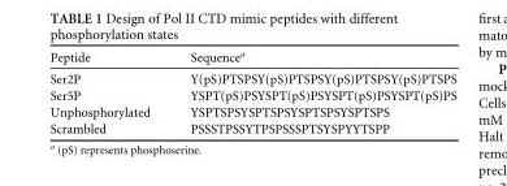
<table><thead><tr><td>Peptide</td><td>Sequence<sup>a</sup></td></tr></thead><tbody><tr><td>Ser2P</td><td>Y(pS)PTSPSY(pS)PTSPSY(pS)PTSPSY(pS)PTSPS</td></tr><tr><td>Ser5P</td><td>YSPT(pS)PSYSPT(pS)PSYSPT(pS)PSYSPT(pS)PS</td></tr><tr><td>Unphosphorylated</td><td>YSPTSPSYSPTSPSYSPTSPSYSPTSPS</td></tr><tr><td>Scrambled</td><td>PSSSTPSSYTPSPSSSPTSYSPYYTSPP</td></tr></tbody></table>